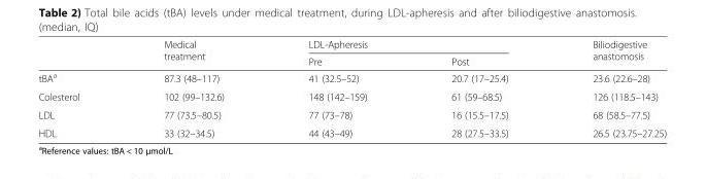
<table><thead><tr><td rowspan="2"></td><td rowspan="2">Medical treatment</td><td colspan="2">LDL-Apheresis</td><td rowspan="2">Biliodigestive anastomosis</td></tr><tr><td>Pre</td><td>Post</td></tr></thead><tbody><tr><td>tBA<sup>a</sup></td><td>87.3 (48–117)</td><td>41 (32.5–52)</td><td>20.7 (17–25.4)</td><td>23.6 (22.6–28)</td></tr><tr><td>Colesterol</td><td>102 (99–132.6)</td><td>148 (142–159)</td><td>61 (59–68.5)</td><td>126 (118.5–143)</td></tr><tr><td>LDL</td><td>77 (73.5–80.5)</td><td>77 (73–78)</td><td>16 (15.5–17.5)</td><td>68 (58.5–77.5)</td></tr><tr><td>HDL</td><td>33 (32–34.5)</td><td>44 (43–49)</td><td>28 (27.5–33.5)</td><td>26.5 (23.75–27.25)</td></tr></tbody></table>